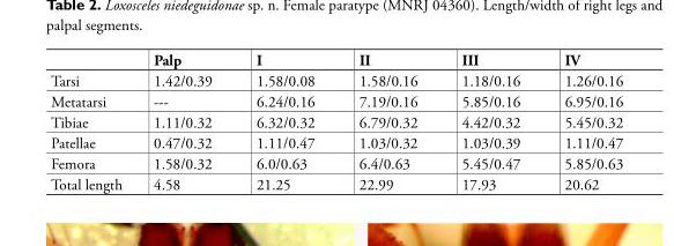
<table><thead><tr><td></td><td>Palp</td><td>I</td><td>II</td><td>III</td><td>IV</td></tr></thead><tbody><tr><td>Tarsi</td><td>1.42/0.39</td><td>1.58/0.08</td><td>1.58/0.16</td><td>1.18/0.16</td><td>1.26/0.16</td></tr><tr><td>Metatarsi</td><td>---</td><td>6.24/0.16</td><td>7.19/0.16</td><td>5.85/0.16</td><td>6.95/0.16</td></tr><tr><td>Tibiae</td><td>1.11/0.32</td><td>6.32/0.32</td><td>6.79/0.32</td><td>4.42/0.32</td><td>5.45/0.32</td></tr><tr><td>Patellae</td><td>0.47/0.32</td><td>1.11/0.47</td><td>1.03/0.32</td><td>1.03/0.39</td><td>1.11/0.47</td></tr><tr><td>Femora</td><td>1.58/0.32</td><td>6.0/0.63</td><td>6.4/0.63</td><td>5.45/0.47</td><td>5.85/0.63</td></tr><tr><td>Total length</td><td>4.58</td><td>21.25</td><td>22.99</td><td>17.93</td><td>20.62</td></tr></tbody></table>